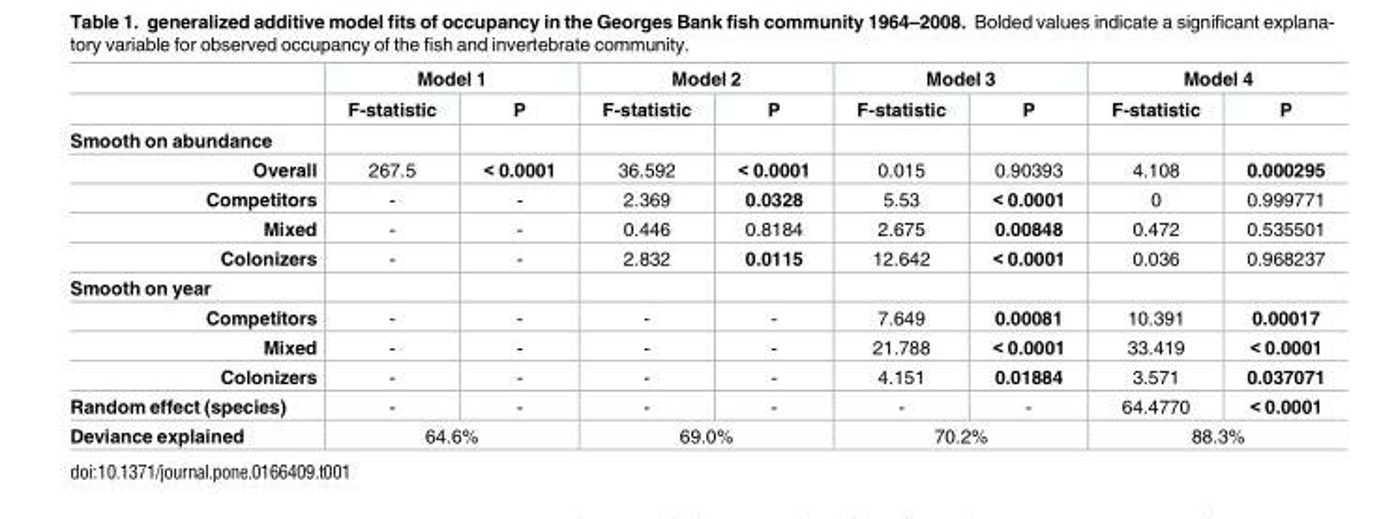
<table><thead><tr><td rowspan="2"></td><td colspan="2">Model 1</td><td colspan="2">Model 2</td><td colspan="2">Model 3</td><td colspan="2">Model 4</td></tr><tr><td>F-statistic</td><td>P</td><td>F-statistic</td><td>P</td><td>F-statistic</td><td>P</td><td>F-statistic</td><td>P</td></tr></thead><tbody><tr><td colspan="9">Smooth on abundance</td></tr><tr><td>Overall</td><td>267.5</td><td>&lt; 0.0001</td><td>36.592</td><td>&lt; 0.0001</td><td>0.015</td><td>0.90393</td><td>4.108</td><td>0.000295</td></tr><tr><td>Competitors</td><td>-</td><td>-</td><td>2.369</td><td>0.0328</td><td>5.53</td><td>&lt; 0.0001</td><td>0</td><td>0.999771</td></tr><tr><td>Mixed</td><td>-</td><td>-</td><td>0.446</td><td>0.8184</td><td>2.675</td><td>0.00848</td><td>0.472</td><td>0.535501</td></tr><tr><td>Colonizers</td><td>-</td><td>-</td><td>2.832</td><td>0.0115</td><td>12.642</td><td>&lt; 0.0001</td><td>0.036</td><td>0.968237</td></tr><tr><td colspan="9">Smooth on year</td></tr><tr><td>Competitors</td><td>-</td><td>-</td><td>-</td><td>-</td><td>7.649</td><td>0.00081</td><td>10.391</td><td>0.00017</td></tr><tr><td>Mixed</td><td>-</td><td>-</td><td>-</td><td>-</td><td>21.788</td><td>&lt; 0.0001</td><td>33.419</td><td>&lt; 0.0001</td></tr><tr><td>Colonizers</td><td>-</td><td>-</td><td>-</td><td>-</td><td>4.151</td><td>0.01884</td><td>3.571</td><td>0.037071</td></tr><tr><td>Random effect (species)</td><td>-</td><td>-</td><td>-</td><td>-</td><td>-</td><td>-</td><td>64.4770</td><td>&lt; 0.0001</td></tr><tr><td>Deviance explained</td><td colspan="2">64.6%</td><td colspan="2">69.0%</td><td colspan="2">70.2%</td><td colspan="2">88.3%</td></tr></tbody></table>